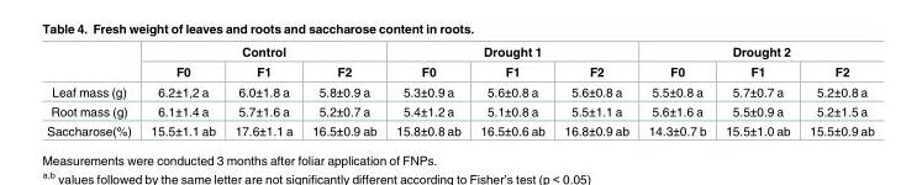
<table><thead><tr><td rowspan="2"></td><td colspan="3">Control</td><td colspan="3">Drought 1</td><td colspan="3">Drought 2</td></tr><tr><td>F0</td><td>F1</td><td>F2</td><td>F0</td><td>F1</td><td>F2</td><td>F0</td><td>F1</td><td>F2</td></tr></thead><tbody><tr><td>Leaf mass (g)</td><td>6.2±1,2 a</td><td>6.0±1.8 a</td><td>5.8±0.9 a</td><td>5.3±0.9 a</td><td>5.6±0.8 a</td><td>5.6±0.8 a</td><td>5.5±0.8 a</td><td>5.7±0.7 a</td><td>5.2±0.8 a</td></tr><tr><td>Root mass (g)</td><td>6.1±1.4 a</td><td>5.7±1.6 a</td><td>5.2±0.7 a</td><td>5.4±1.2 a</td><td>5.1±0.8 a</td><td>5.5±1.1 a</td><td>5.6±1.6 a</td><td>5.5±0.9 a</td><td>5.2±1.5 a</td></tr><tr><td>Saccharose(%)</td><td>15.5±1.1 ab</td><td>17.6±1.1 a</td><td>16.5±0.9 ab</td><td>15.8±0.8 ab</td><td>16.5±0.6 ab</td><td>16.8±0.9 ab</td><td>14.3±0.7 b</td><td>15.5±1.0 ab</td><td>15.5±0.9 ab</td></tr></tbody></table>